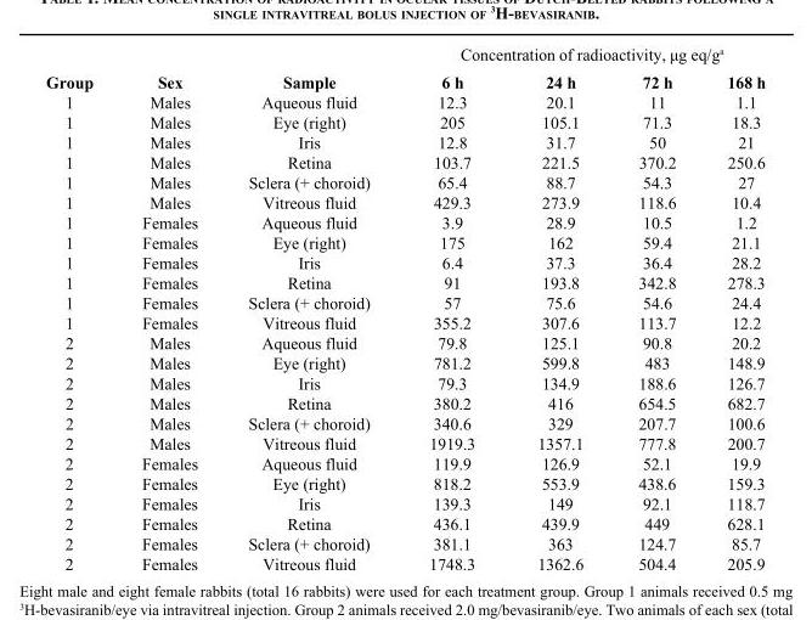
<table><thead><tr><td rowspan="2">Group</td><td rowspan="2">Sex</td><td rowspan="2">Sample</td><td colspan="4">Concentration of radioactivity, μg eq/g<sup>a</sup></td></tr><tr><td>6 h</td><td>24 h</td><td>72 h</td><td>168 h</td></tr></thead><tbody><tr><td>1</td><td>Males</td><td>Aqueous fluid</td><td>12.3</td><td>20.1</td><td>11</td><td>1.1</td></tr><tr><td>1</td><td>Males</td><td>Eye (right)</td><td>205</td><td>105.1</td><td>71.3</td><td>18.3</td></tr><tr><td>1</td><td>Males</td><td>Iris</td><td>12.8</td><td>31.7</td><td>50</td><td>21</td></tr><tr><td>1</td><td>Males</td><td>Retina</td><td>103.7</td><td>221.5</td><td>370.2</td><td>250.6</td></tr><tr><td>1</td><td>Males</td><td>Sclera (+ choroid)</td><td>65.4</td><td>88.7</td><td>54.3</td><td>27</td></tr><tr><td>1</td><td>Males</td><td>Vitreous fluid</td><td>429.3</td><td>273.9</td><td>118.6</td><td>10.4</td></tr><tr><td>1</td><td>Females</td><td>Aqueous fluid</td><td>3.9</td><td>28.9</td><td>10.5</td><td>1.2</td></tr><tr><td>1</td><td>Females</td><td>Eye (right)</td><td>175</td><td>162</td><td>59.4</td><td>21.1</td></tr><tr><td>1</td><td>Females</td><td>Iris</td><td>6.4</td><td>37.3</td><td>36.4</td><td>28.2</td></tr><tr><td>1</td><td>Females</td><td>Retina</td><td>91</td><td>193.8</td><td>342.8</td><td>278.3</td></tr><tr><td>1</td><td>Females</td><td>Sclera (+ choroid)</td><td>57</td><td>75.6</td><td>54.6</td><td>24.4</td></tr><tr><td>1</td><td>Females</td><td>Vitreous fluid</td><td>355.2</td><td>307.6</td><td>113.7</td><td>12.2</td></tr><tr><td>2</td><td>Males</td><td>Aqueous fluid</td><td>79.8</td><td>125.1</td><td>90.8</td><td>20.2</td></tr><tr><td>2</td><td>Males</td><td>Eye (right)</td><td>781.2</td><td>599.8</td><td>483</td><td>148.9</td></tr><tr><td>2</td><td>Males</td><td>Iris</td><td>79.3</td><td>134.9</td><td>188.6</td><td>126.7</td></tr><tr><td>2</td><td>Males</td><td>Retina</td><td>380.2</td><td>416</td><td>654.5</td><td>682.7</td></tr><tr><td>2</td><td>Males</td><td>Sclera (+ choroid)</td><td>340.6</td><td>329</td><td>207.7</td><td>100.6</td></tr><tr><td>2</td><td>Males</td><td>Vitreous fluid</td><td>1919.3</td><td>1357.1</td><td>777.8</td><td>200.7</td></tr><tr><td>2</td><td>Females</td><td>Aqueous fluid</td><td>119.9</td><td>126.9</td><td>52.1</td><td>19.9</td></tr><tr><td>2</td><td>Females</td><td>Eye (right)</td><td>818.2</td><td>553.9</td><td>438.6</td><td>159.3</td></tr><tr><td>2</td><td>Females</td><td>Iris</td><td>139.3</td><td>149</td><td>92.1</td><td>118.7</td></tr><tr><td>2</td><td>Females</td><td>Retina</td><td>436.1</td><td>439.9</td><td>449</td><td>628.1</td></tr><tr><td>2</td><td>Females</td><td>Sclera (+ choroid)</td><td>381.1</td><td>363</td><td>124.7</td><td>85.7</td></tr><tr><td>2</td><td>Females</td><td>Vitreous fluid</td><td>1748.3</td><td>1362.6</td><td>504.4</td><td>205.9</td></tr></tbody></table>